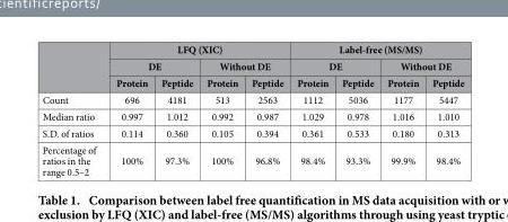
<table><thead><tr><td rowspan="3"></td><td colspan="4">LFQ (XIC)</td><td colspan="4">Label-free (MS/MS)</td></tr><tr><td colspan="2">DE</td><td colspan="2">Without DE</td><td colspan="2">DE</td><td colspan="2">Without DE</td></tr><tr><td>Protein</td><td>Peptide</td><td>Protein</td><td>Peptide</td><td>Protein</td><td>Peptide</td><td>Protein</td><td>Peptide</td></tr></thead><tbody><tr><td>Count</td><td>696</td><td>4181</td><td>513</td><td>2563</td><td>1112</td><td>5036</td><td>1177</td><td>5447</td></tr><tr><td>Median ratio</td><td>0.997</td><td>1.012</td><td>0.992</td><td>0.987</td><td>1.029</td><td>0.978</td><td>1.016</td><td>1.010</td></tr><tr><td>S.D. of ratios</td><td>0.114</td><td>0.360</td><td>0.105</td><td>0.394</td><td>0.361</td><td>0.533</td><td>0.180</td><td>0.313</td></tr><tr><td>Percentage of ratios in the range 0.5–2</td><td>100%</td><td>97.3%</td><td>100%</td><td>96.8%</td><td>98.4%</td><td>93.3%</td><td>99.9%</td><td>98.4%</td></tr></tbody></table>